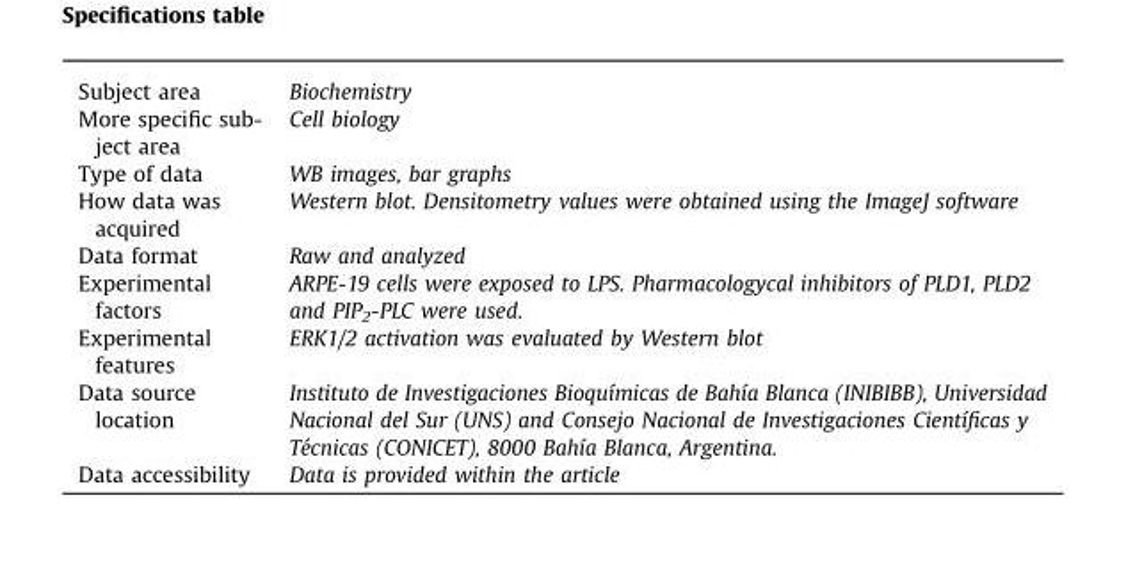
<table><tbody><tr><td>Subject area</td><td>Biochemistry</td></tr><tr><td>More specific sub- ject area</td><td>Cell biology</td></tr><tr><td>Type of data</td><td>WB images, bar graphs</td></tr><tr><td>How data was acquired</td><td>Western blot. Densitometry values were obtained using the ImageJ software</td></tr><tr><td>Data format</td><td>Raw and analyzed</td></tr><tr><td>Experimental factors</td><td>ARPE-19 cells were exposed to LPS. Pharmacologycal inhibitors of PLD1, PLD2 and PIP<sub>2</sub>-PLC were used.</td></tr><tr><td>Experimental features</td><td>ERK1/2 activation was evaluated by Western blot</td></tr><tr><td>Data source location</td><td>Instituto de Investigaciones Bioquímicas de Bahía Blanca (INIBIBB), Universidad Nacional del Sur (UNS) and Consejo Nacional de Investigaciones Científicas y Técnicas (CONICET), 8000 Bahía Blanca, Argentina.</td></tr><tr><td>Data accessibility</td><td>Data is provided within the article</td></tr></tbody></table>